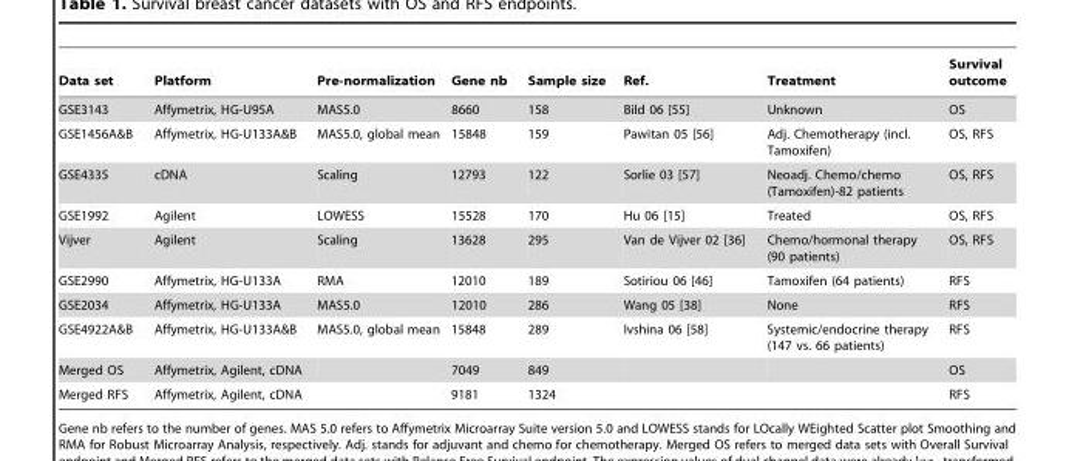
<table><thead><tr><td>Data set</td><td>Platform</td><td>Pre-normalization</td><td>Gene nb</td><td>Sample size</td><td>Ref.</td><td>Treatment</td><td>Survival outcome</td></tr></thead><tbody><tr><td>GSE3143</td><td>Affymetrix, HG-U95A</td><td>MAS5.0</td><td>8660</td><td>158</td><td>Bild 06 [55]</td><td>Unknown</td><td>OS</td></tr><tr><td>GSE1456A&amp;B</td><td>Affymetrix, HG-U133A&amp;B</td><td>MAS5.0, global mean</td><td>15848</td><td>159</td><td>Pawitan 05 [56]</td><td>Adj. Chemotherapy (incl. Tamoxifen)</td><td>OS, RFS</td></tr><tr><td>GSE4335</td><td>cDNA</td><td>Scaling</td><td>12793</td><td>122</td><td>Sorlie 03 [57]</td><td>Neoadj. Chemo/chemo (Tamoxifen)-82 patients</td><td>OS, RFS</td></tr><tr><td>GSE1992</td><td>Agilent</td><td>LOWESS</td><td>15528</td><td>170</td><td>Hu 06 [15]</td><td>Treated</td><td>OS, RFS</td></tr><tr><td>Vijver</td><td>Agilent</td><td>Scaling</td><td>13628</td><td>295</td><td>Van de Vijver 02 [36]</td><td>Chemo/hormonal therapy (90 patients)</td><td>OS, RFS</td></tr><tr><td>GSE2990</td><td>Affymetrix, HG-U133A</td><td>RMA</td><td>12010</td><td>189</td><td>Sotiriou 06 [46]</td><td>Tamoxifen (64 patients)</td><td>RFS</td></tr><tr><td>GSE2034</td><td>Affymetrix, HG-U133A</td><td>MAS5.0</td><td>12010</td><td>286</td><td>Wang 05 [38]</td><td>None</td><td>RFS</td></tr><tr><td>GSE4922A&amp;B</td><td>Affymetrix, HG-U133A&amp;B</td><td>MAS5.0, global mean</td><td>15848</td><td>289</td><td>Ivshina 06 [58]</td><td>Systemic/endocrine therapy (147 vs. 66 patients)</td><td>RFS</td></tr><tr><td>Merged OS</td><td>Affymetrix, Agilent, cDNA</td><td></td><td>7049</td><td>849</td><td></td><td></td><td>OS</td></tr><tr><td>Merged RFS</td><td>Affymetrix, Agilent, cDNA</td><td></td><td>9181</td><td>1324</td><td></td><td></td><td>RFS</td></tr></tbody></table>